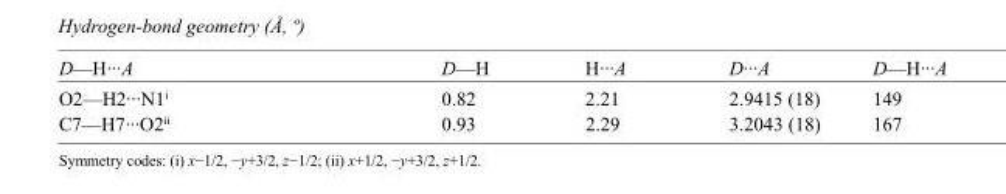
<table><tbody><tr><td>D—H···A</td><td>D—H</td><td>H···A</td><td>D···A</td><td>D—H···A</td></tr><tr><td>O2—H2···N1<sup>i</sup></td><td>0.82</td><td>2.21</td><td>2.9415 (18)</td><td>149</td></tr><tr><td>C7—H7···O2<sup>ii</sup></td><td>0.93</td><td>2.29</td><td>3.2043 (18)</td><td>167</td></tr></tbody></table>